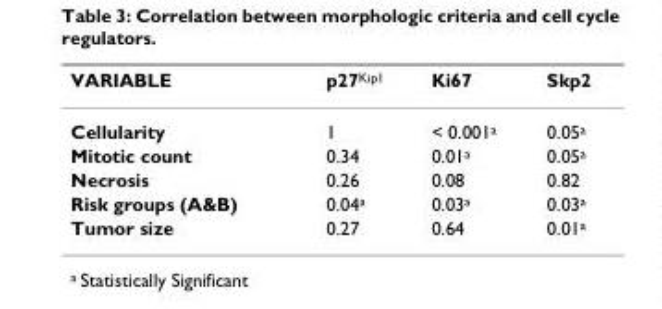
<table><thead><tr><td>VARIABLE</td><td>p27<sup>Kip1</sup></td><td>Ki67</td><td>Skp2</td></tr></thead><tbody><tr><td>Cellularity</td><td>1</td><td>&lt; 0.001<sup>a</sup></td><td>0.05<sup>a</sup></td></tr><tr><td>Mitotic count</td><td>0.34</td><td>0.01<sup>a</sup></td><td>0.05<sup>a</sup></td></tr><tr><td>Necrosis</td><td>0.26</td><td>0.08</td><td>0.82</td></tr><tr><td>Risk groups (A&amp;B)</td><td>0.04<sup>a</sup></td><td>0.03<sup>a</sup></td><td>0.03<sup>a</sup></td></tr><tr><td>Tumor size</td><td>0.27</td><td>0.64</td><td>0.01<sup>a</sup></td></tr></tbody></table>